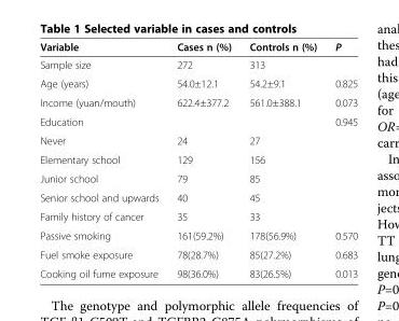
<table><thead><tr><td>Variable</td><td>Cases n (%)</td><td>Controls n (%)</td><td>P</td></tr></thead><tbody><tr><td>Sample size</td><td>272</td><td>313</td><td></td></tr><tr><td>Age (years)</td><td>54.0±12.1</td><td>54.2±9.1</td><td>0.825</td></tr><tr><td>Income (yuan/mouth)</td><td>622.4±377.2</td><td>561.0±388.1</td><td>0.073</td></tr><tr><td>Education</td><td></td><td></td><td>0.945</td></tr><tr><td>Never</td><td>24</td><td>27</td><td></td></tr><tr><td>Elementary school</td><td>129</td><td>156</td><td></td></tr><tr><td>Junior school</td><td>79</td><td>85</td><td></td></tr><tr><td>Senior school and upwards</td><td>40</td><td>45</td><td></td></tr><tr><td>Family history of cancer</td><td>35</td><td>33</td><td></td></tr><tr><td>Passive smoking</td><td>161(59.2%)</td><td>178(56.9%)</td><td>0.570</td></tr><tr><td>Fuel smoke exposure</td><td>78(28.7%)</td><td>85(27.2%)</td><td>0.683</td></tr><tr><td>Cooking oil fume exposure</td><td>98(36.0%)</td><td>83(26.5%)</td><td>0.013</td></tr></tbody></table>